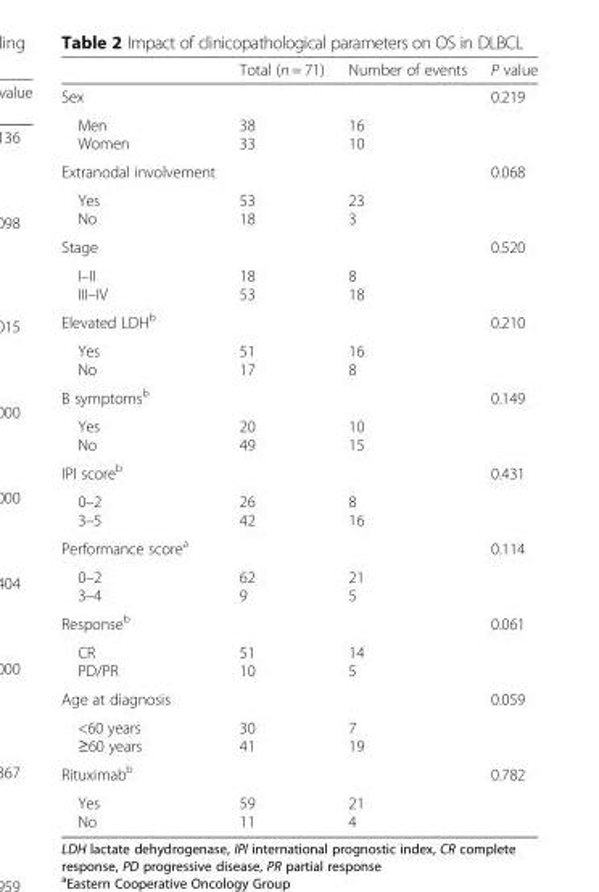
<table><thead><tr><td></td><td>Total (n = 71)</td><td>Number of events</td><td>P value</td></tr></thead><tbody><tr><td colspan="3">Sex</td><td rowspan="2">0.219</td></tr><tr><td>Men Women</td><td>38 33</td><td>16 10</td></tr><tr><td colspan="3">Extranodal involvement</td><td rowspan="2">0.068</td></tr><tr><td>Yes No</td><td>53 18</td><td>23 3</td></tr><tr><td colspan="3">Stage</td><td rowspan="2">0.520</td></tr><tr><td>I–II III–IV</td><td>18 53</td><td>8 18</td></tr><tr><td colspan="3">Elevated LDH<sup>b</sup></td><td rowspan="2">0.210</td></tr><tr><td>Yes No</td><td>51 17</td><td>16 8</td></tr><tr><td colspan="3">B symptoms<sup>b</sup></td><td rowspan="2">0.149</td></tr><tr><td>Yes No</td><td>20 49</td><td>10 15</td></tr><tr><td colspan="3">IPI score<sup>b</sup></td><td rowspan="2">0.431</td></tr><tr><td>0–2 3–5</td><td>26 42</td><td>8 16</td></tr><tr><td colspan="3">Performance score<sup>a</sup></td><td rowspan="2">0.114</td></tr><tr><td>0–2 3–4</td><td>62 9</td><td>21 5</td></tr><tr><td colspan="3">Response<sup>b</sup></td><td rowspan="2">0.061</td></tr><tr><td>CR PD/PR</td><td>51 10</td><td>14 5</td></tr><tr><td colspan="3">Age at diagnosis</td><td rowspan="2">0.059</td></tr><tr><td>&lt;60 years ≥60 years</td><td>30 41</td><td>7 19</td></tr><tr><td colspan="3">Rituximab<sup>b</sup></td><td rowspan="2">0.782</td></tr><tr><td>Yes No</td><td>59 11</td><td>21 4</td></tr></tbody></table>